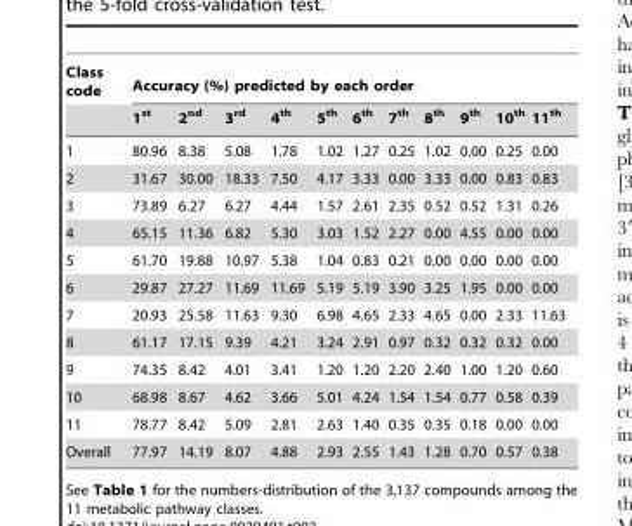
<table><thead><tr><td rowspan="2">Class code</td><td colspan="11">Accuracy (%) predicted by each order</td></tr><tr><td>1<sup>st</sup></td><td>2<sup>nd</sup></td><td>3<sup>rd</sup></td><td>4<sup>th</sup></td><td>5<sup>th</sup></td><td>6<sup>th</sup></td><td>7<sup>th</sup></td><td>8<sup>th</sup></td><td>9<sup>th</sup></td><td>10<sup>th</sup></td><td>11<sup>th</sup></td></tr></thead><tbody><tr><td>1</td><td>80.96</td><td>8.38</td><td>5.08</td><td>1.78</td><td>1.02</td><td>1.27</td><td>0.25</td><td>1.02</td><td>0.00</td><td>0.25</td><td>0.00</td></tr><tr><td>2</td><td>31.67</td><td>30.00</td><td>18.33</td><td>7.50</td><td>4.17</td><td>3.33</td><td>0.00</td><td>3.33</td><td>0.00</td><td>0.83</td><td>0.83</td></tr><tr><td>3</td><td>73.89</td><td>6.27</td><td>6.27</td><td>4.44</td><td>1.57</td><td>2.61</td><td>2.35</td><td>0.52</td><td>0.52</td><td>1.31</td><td>0.26</td></tr><tr><td>4</td><td>65.15</td><td>11.36</td><td>6.82</td><td>5.30</td><td>3.03</td><td>1.52</td><td>2.27</td><td>0.00</td><td>4.55</td><td>0.00</td><td>0.00</td></tr><tr><td>5</td><td>61.70</td><td>19.88</td><td>10.97</td><td>5.38</td><td>1.04</td><td>0.83</td><td>0.21</td><td>0.00</td><td>0.00</td><td>0.00</td><td>0.00</td></tr><tr><td>6</td><td>29.87</td><td>27.27</td><td>11.69</td><td>11.69</td><td>5.19</td><td>5.19</td><td>3.90</td><td>3.25</td><td>1.95</td><td>0.00</td><td>0.00</td></tr><tr><td>7</td><td>20.93</td><td>25.58</td><td>11.63</td><td>9.30</td><td>6.98</td><td>4.65</td><td>2.33</td><td>4.65</td><td>0.00</td><td>2.33</td><td>11.63</td></tr><tr><td>8</td><td>61.17</td><td>17.15</td><td>9.39</td><td>4.21</td><td>3.24</td><td>2.91</td><td>0.97</td><td>0.32</td><td>0.32</td><td>0.32</td><td>0.00</td></tr><tr><td>9</td><td>74.35</td><td>8.42</td><td>4.01</td><td>3.41</td><td>1.20</td><td>1.20</td><td>2.20</td><td>2.40</td><td>1.00</td><td>1.20</td><td>0.60</td></tr><tr><td>10</td><td>68.98</td><td>8.67</td><td>4.62</td><td>3.66</td><td>5.01</td><td>4.24</td><td>1.54</td><td>1.54</td><td>0.77</td><td>0.58</td><td>0.39</td></tr><tr><td>11</td><td>78.77</td><td>8.42</td><td>5.09</td><td>2.81</td><td>2.63</td><td>1.40</td><td>0.35</td><td>0.35</td><td>0.18</td><td>0.00</td><td>0.00</td></tr><tr><td>Overall</td><td>77.97</td><td>14.19</td><td>8.07</td><td>4.88</td><td>2.93</td><td>2.55</td><td>1.43</td><td>1.28</td><td>0.70</td><td>0.57</td><td>0.38</td></tr></tbody></table>